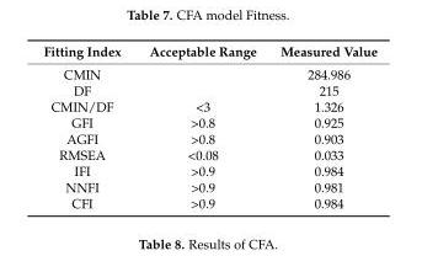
<table><thead><tr><td>Fitting Index</td><td>Acceptable Range</td><td>Measured Value</td></tr></thead><tbody><tr><td>CMIN</td><td></td><td>284.986</td></tr><tr><td>DF</td><td></td><td>215</td></tr><tr><td>CMIN/DF</td><td>&lt;3</td><td>1.326</td></tr><tr><td>GFI</td><td>&gt;0.8</td><td>0.925</td></tr><tr><td>AGFI</td><td>&gt;0.8</td><td>0.903</td></tr><tr><td>RMSEA</td><td>&lt;0.08</td><td>0.033</td></tr><tr><td>IFI</td><td>&gt;0.9</td><td>0.984</td></tr><tr><td>NNFI</td><td>&gt;0.9</td><td>0.981</td></tr><tr><td>CFI</td><td>&gt;0.9</td><td>0.984</td></tr></tbody></table>